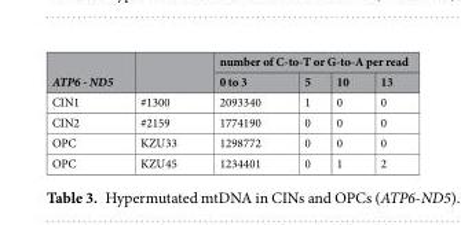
<table><thead><tr><td rowspan="2">ATP6 - ND5</td><td rowspan="2"></td><td colspan="4">number of C-to-T or G-to-A per read</td></tr><tr><td>0 to 3</td><td>5</td><td>10</td><td>13</td></tr></thead><tbody><tr><td>CIN1</td><td>#1300</td><td>2093340</td><td>1</td><td>0</td><td>0</td></tr><tr><td>CIN2</td><td>#2159</td><td>1774190</td><td>0</td><td>0</td><td>0</td></tr><tr><td>OPC</td><td>KZU33</td><td>1298772</td><td>0</td><td>0</td><td>0</td></tr><tr><td>OPC</td><td>KZU45</td><td>1234401</td><td>0</td><td>1</td><td>2</td></tr></tbody></table>